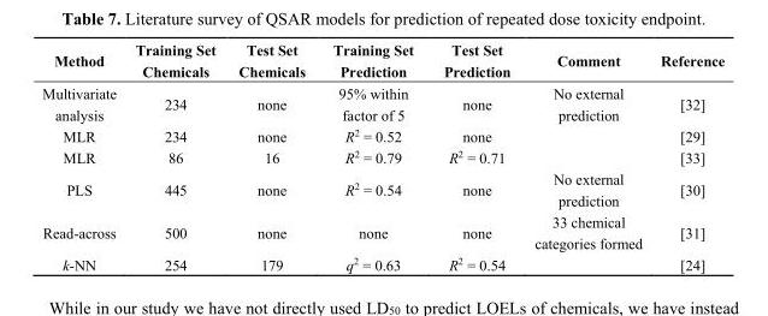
<table><thead><tr><td>Method</td><td>Training Set Chemicals</td><td>Test Set Chemicals</td><td>Training Set Prediction</td><td>Test Set Prediction</td><td>Comment</td><td>Reference</td></tr></thead><tbody><tr><td>Multivariate analysis</td><td>234</td><td>none</td><td>95% within factor of 5</td><td>none</td><td>No external prediction</td><td>[32]</td></tr><tr><td>MLR</td><td>234</td><td>none</td><td>R<sup>2</sup> = 0.52</td><td>none</td><td></td><td>[29]</td></tr><tr><td>MLR</td><td>86</td><td>16</td><td>R<sup>2</sup> = 0.79</td><td>R<sup>2</sup> = 0.71</td><td></td><td>[33]</td></tr><tr><td>PLS</td><td>445</td><td>none</td><td>R<sup>2</sup> = 0.54</td><td>none</td><td>No external prediction</td><td>[30]</td></tr><tr><td>Read-across</td><td>500</td><td>none</td><td>none</td><td>none</td><td>33 chemical categories formed</td><td>[31]</td></tr><tr><td>k-NN</td><td>254</td><td>179</td><td>q<sup>2</sup> = 0.63</td><td>R<sup>2</sup> = 0.54</td><td></td><td>[24]</td></tr></tbody></table>